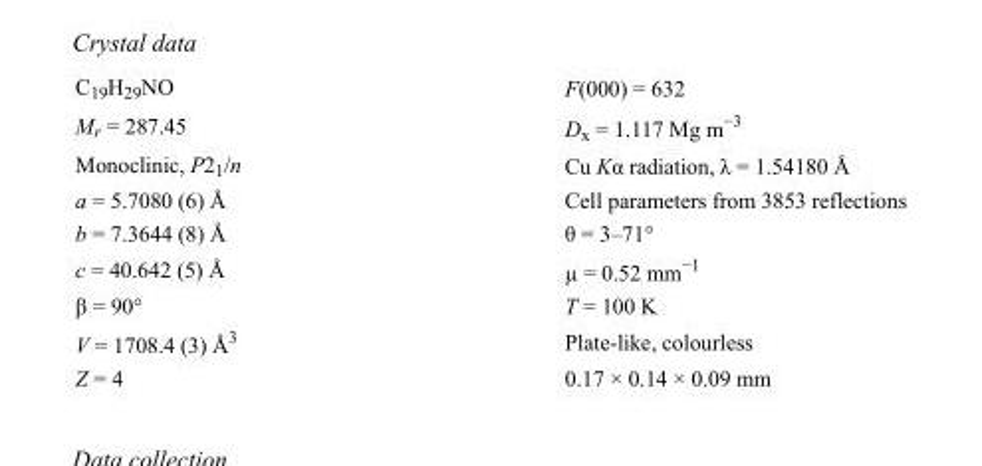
<table><tbody><tr><td>C<sub>19</sub>H<sub>29</sub>NO</td><td>F(000) = 632</td></tr><tr><td>M<sub>r</sub> = 287.45</td><td>D<sub>x</sub> = 1.117 Mg m<sup>−3</sup></td></tr><tr><td>Monoclinic, P2<sub>1</sub>/n</td><td>Cu Kα radiation, λ = 1.54180 Å</td></tr><tr><td>a = 5.7080 (6) Å</td><td>Cell parameters from 3853 reflections</td></tr><tr><td>b = 7.3644 (8) Å</td><td>θ = 3–71°</td></tr><tr><td>c = 40.642 (5) Å</td><td>µ = 0.52 mm<sup>−1</sup></td></tr><tr><td>β = 90°</td><td>T = 100 K</td></tr><tr><td>V = 1708.4 (3) Å<sup>3</sup></td><td>Plate-like, colourless</td></tr><tr><td>Z = 4</td><td>0.17 × 0.14 × 0.09 mm</td></tr></tbody></table>